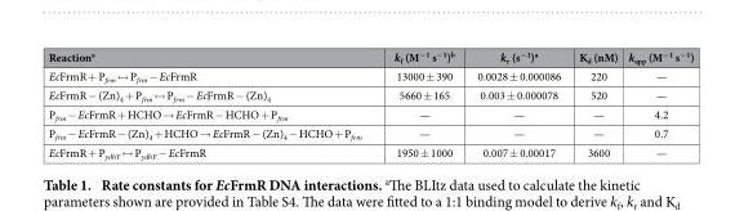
<table><thead><tr><td>Reaction<sup>a</sup></td><td>k<sub>f</sub> (M<sup>−1</sup> s<sup>−1</sup>)<sup>b</sup></td><td>k<sub>r</sub> (s<sup>−1</sup>)<sup>a</sup></td><td>K<sub>d</sub> (nM)</td><td>k<sub>app</sub> (M<sup>−1</sup> s<sup>−1</sup>)</td></tr></thead><tbody><tr><td>EcFrmR + P<sub>frm</sub> ↔ P<sub>frm</sub> − EcFrmR</td><td>13000 ± 390</td><td>0.0028 ± 0.000086</td><td>220</td><td>—</td></tr><tr><td>EcFrmR − (Zn)<sub>4</sub> + P<sub>frm</sub> ↔ P<sub>frm</sub> − EcFrmR − (Zn)<sub>4</sub></td><td>5660 ± 165</td><td>0.003 ± 0.000078</td><td>520</td><td>—</td></tr><tr><td>P<sub>frm</sub> − EcFrmR + HCHO → EcFrmR − HCHO + P<sub>frm</sub></td><td>—</td><td>—</td><td>—</td><td>4.2</td></tr><tr><td>P<sub>frm</sub> − EcFrmR − (Zn)<sub>4</sub> + HCHO → EcFrmR − (Zn)<sub>4</sub> − HCHO + P<sub>frm</sub></td><td>—</td><td>—</td><td>—</td><td>0.7</td></tr><tr><td>EcFrmR + P<sub>ydhY</sub> ↔ P<sub>ydhY</sub> − EcFrmR</td><td>1950 ± 1000</td><td>0.007 ± 0.00017</td><td>3600</td><td>—</td></tr></tbody></table>